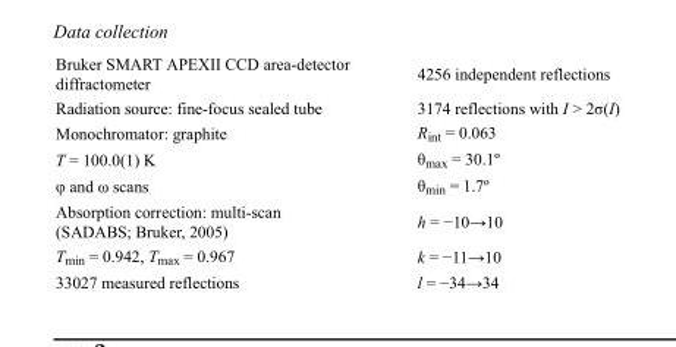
<table><tbody><tr><td>Bruker SMART APEXII CCD area-detector diffractometer</td><td>4256 independent reflections</td></tr><tr><td>Radiation source: fine-focus sealed tube</td><td>3174 reflections with I &gt; 2σ(I)</td></tr><tr><td>Monochromator: graphite</td><td>R<sub>int</sub> = 0.063</td></tr><tr><td>T = 100.0(1) K</td><td>θ<sub>max</sub> = 30.1º</td></tr><tr><td>φ and ω scans</td><td>θ<sub>min</sub> = 1.7º</td></tr><tr><td>Absorption correction: multi-scan (SADABS; Bruker, 2005)</td><td>h = −10→10</td></tr><tr><td>T<sub>min</sub> = 0.942, T<sub>max</sub> = 0.967</td><td>k = −11→10</td></tr><tr><td>33027 measured reflections</td><td>l = −34→34</td></tr></tbody></table>